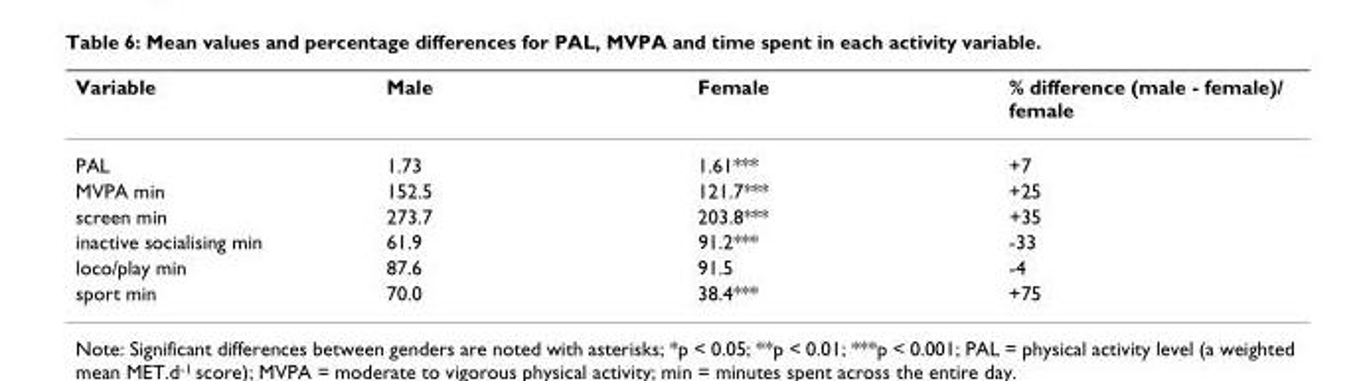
<table><thead><tr><td>Variable</td><td>Male</td><td>Female</td><td>% difference (male - female)/ female</td></tr></thead><tbody><tr><td>PAL</td><td>1.73</td><td>1.61***</td><td>+7</td></tr><tr><td>MVPA min</td><td>152.5</td><td>121.7***</td><td>+25</td></tr><tr><td>screen min</td><td>273.7</td><td>203.8***</td><td>+35</td></tr><tr><td>inactive socialising min</td><td>61.9</td><td>91.2***</td><td>-33</td></tr><tr><td>loco/play min</td><td>87.6</td><td>91.5</td><td>-4</td></tr><tr><td>sport min</td><td>70.0</td><td>38.4***</td><td>+75</td></tr></tbody></table>